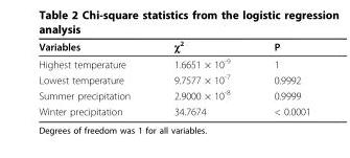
<table><thead><tr><td>Variables</td><td>χ<sup>2</sup></td><td>P</td></tr></thead><tbody><tr><td>Highest temperature</td><td>1.6651 × 10<sup>-9</sup></td><td>1</td></tr><tr><td>Lowest temperature</td><td>9.7577 × 10<sup>-7</sup></td><td>0.9992</td></tr><tr><td>Summer precipitation</td><td>2.9000 × 10<sup>-8</sup></td><td>0.9999</td></tr><tr><td>Winter precipitation</td><td>34.7674</td><td>&lt; 0.0001</td></tr></tbody></table>